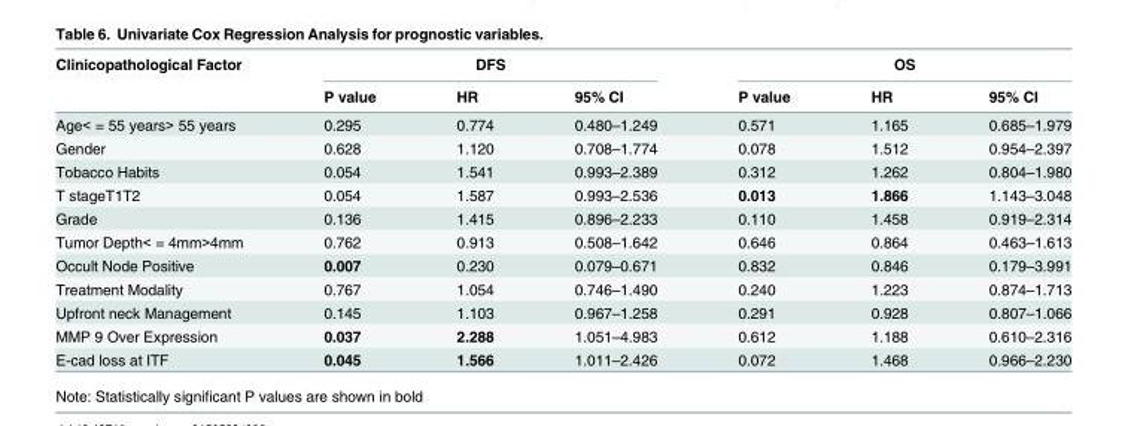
<table><thead><tr><td rowspan="2">Clinicopathological Factor</td><td colspan="3">DFS</td><td colspan="3">OS</td></tr><tr><td>P value</td><td>HR</td><td>95% CI</td><td>P value</td><td>HR</td><td>95% CI</td></tr></thead><tbody><tr><td>Age&lt; = 55 years&gt; 55 years</td><td>0.295</td><td>0.774</td><td>0.480–1.249</td><td>0.571</td><td>1.165</td><td>0.685–1.979</td></tr><tr><td>Gender</td><td>0.628</td><td>1.120</td><td>0.708–1.774</td><td>0.078</td><td>1.512</td><td>0.954–2.397</td></tr><tr><td>Tobacco Habits</td><td>0.054</td><td>1.541</td><td>0.993–2.389</td><td>0.312</td><td>1.262</td><td>0.804–1.980</td></tr><tr><td>T stageT1T2</td><td>0.054</td><td>1.587</td><td>0.993–2.536</td><td>0.013</td><td>1.866</td><td>1.143–3.048</td></tr><tr><td>Grade</td><td>0.136</td><td>1.415</td><td>0.896–2.233</td><td>0.110</td><td>1.458</td><td>0.919–2.314</td></tr><tr><td>Tumor Depth&lt; = 4mm&gt;4mm</td><td>0.762</td><td>0.913</td><td>0.508–1.642</td><td>0.646</td><td>0.864</td><td>0.463–1.613</td></tr><tr><td>Occult Node Positive</td><td>0.007</td><td>0.230</td><td>0.079–0.671</td><td>0.832</td><td>0.846</td><td>0.179–3.991</td></tr><tr><td>Treatment Modality</td><td>0.767</td><td>1.054</td><td>0.746–1.490</td><td>0.240</td><td>1.223</td><td>0.874–1.713</td></tr><tr><td>Upfront neck Management</td><td>0.145</td><td>1.103</td><td>0.967–1.258</td><td>0.291</td><td>0.928</td><td>0.807–1.066</td></tr><tr><td>MMP 9 Over Expression</td><td>0.037</td><td>2.288</td><td>1.051–4.983</td><td>0.612</td><td>1.188</td><td>0.610–2.316</td></tr><tr><td>E-cad loss at ITF</td><td>0.045</td><td>1.566</td><td>1.011–2.426</td><td>0.072</td><td>1.468</td><td>0.966–2.230</td></tr></tbody></table>